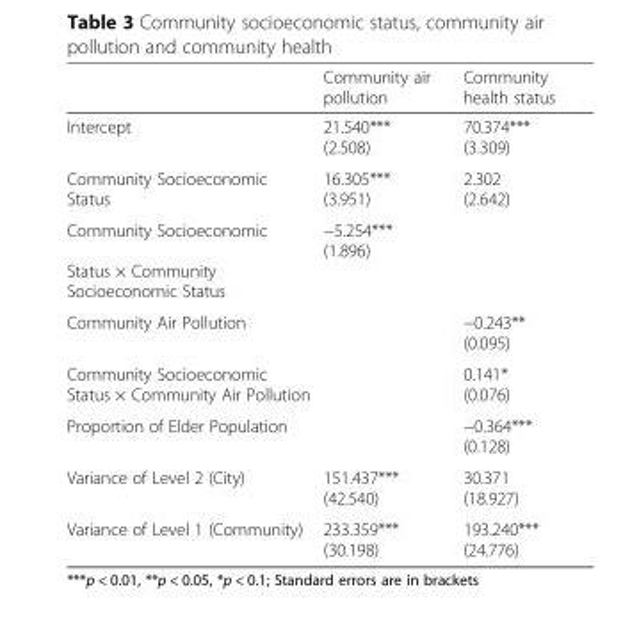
<table><thead><tr><td></td><td>Community air pollution</td><td>Community health status</td></tr></thead><tbody><tr><td>Intercept</td><td>21.540*** (2.508)</td><td>70.374*** (3.309)</td></tr><tr><td>Community Socioeconomic Status</td><td>16.305*** (3.951)</td><td>2.302 (2.642)</td></tr><tr><td>Community Socioeconomic Status × Community Socioeconomic Status</td><td>−5.254*** (1.896)</td><td></td></tr><tr><td>Community Air Pollution</td><td></td><td>−0.243** (0.095)</td></tr><tr><td>Community Socioeconomic Status × Community Air Pollution</td><td></td><td>0.141* (0.076)</td></tr><tr><td>Proportion of Elder Population</td><td></td><td>−0.364*** (0.128)</td></tr><tr><td>Variance of Level 2 (City)</td><td>151.437*** (42.540)</td><td>30.371 (18.927)</td></tr><tr><td>Variance of Level 1 (Community)</td><td>233.359*** (30.198)</td><td>193.240*** (24.776)</td></tr></tbody></table>